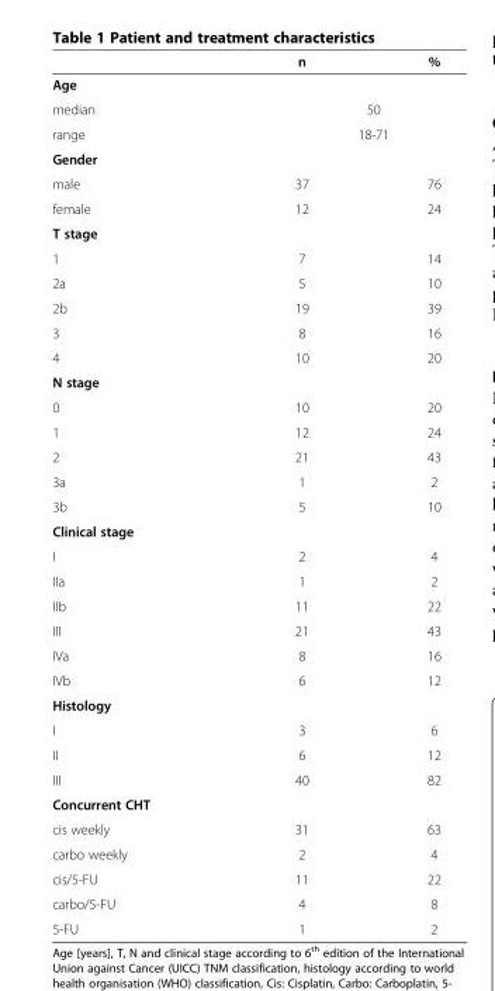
<table><thead><tr><td></td><td>n</td><td>%</td></tr></thead><tbody><tr><td colspan="3">Age</td></tr><tr><td>median</td><td colspan="2">50</td></tr><tr><td>range</td><td colspan="2">18-71</td></tr><tr><td colspan="3">Gender</td></tr><tr><td>male</td><td>37</td><td>76</td></tr><tr><td>female</td><td>12</td><td>24</td></tr><tr><td colspan="3">T stage</td></tr><tr><td>1</td><td>7</td><td>14</td></tr><tr><td>2a</td><td>5</td><td>10</td></tr><tr><td>2b</td><td>19</td><td>39</td></tr><tr><td>3</td><td>8</td><td>16</td></tr><tr><td>4</td><td>10</td><td>20</td></tr><tr><td colspan="3">N stage</td></tr><tr><td>0</td><td>10</td><td>20</td></tr><tr><td>1</td><td>12</td><td>24</td></tr><tr><td>2</td><td>21</td><td>43</td></tr><tr><td>3a</td><td>1</td><td>2</td></tr><tr><td>3b</td><td>5</td><td>10</td></tr><tr><td colspan="3">Clinical stage</td></tr><tr><td>I</td><td>2</td><td>4</td></tr><tr><td>IIa</td><td>1</td><td>2</td></tr><tr><td>IIb</td><td>11</td><td>22</td></tr><tr><td>III</td><td>21</td><td>43</td></tr><tr><td>IVa</td><td>8</td><td>16</td></tr><tr><td>IVb</td><td>6</td><td>12</td></tr><tr><td colspan="3">Histology</td></tr><tr><td>I</td><td>3</td><td>6</td></tr><tr><td>II</td><td>6</td><td>12</td></tr><tr><td>III</td><td>40</td><td>82</td></tr><tr><td colspan="3">Concurrent CHT</td></tr><tr><td>cis weekly</td><td>31</td><td>63</td></tr><tr><td>carbo weekly</td><td>2</td><td>4</td></tr><tr><td>cis/5-FU</td><td>11</td><td>22</td></tr><tr><td>carbo/5-FU</td><td>4</td><td>8</td></tr><tr><td>5-FU</td><td>1</td><td>2</td></tr></tbody></table>